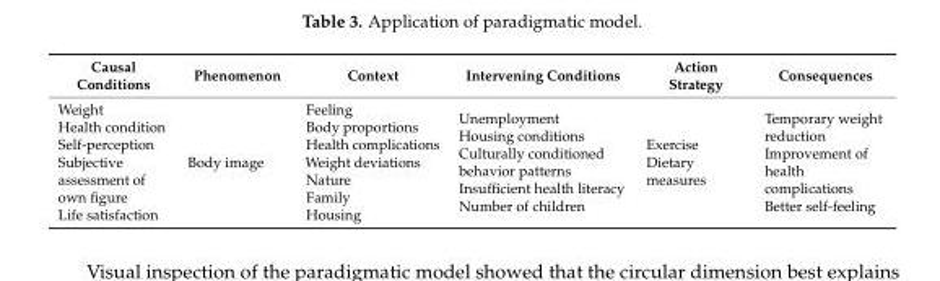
<table><thead><tr><td>Causal Conditions</td><td>Phenomenon</td><td>Context</td><td>Intervening Conditions</td><td>Action Strategy</td><td>Consequences</td></tr></thead><tbody><tr><td>Weight Health condition Self-perception Subjective assessment of own figure Life satisfaction</td><td>Body image</td><td>Feeling Body proportions Health complications Weight deviations Nature Family Housing</td><td>Unemployment Housing conditions Culturally conditioned behavior patterns Insufficient health literacy Number of children</td><td>Exercise Dietary measures</td><td>Temporary weight reduction Improvement of health complications Better self-feeling</td></tr></tbody></table>